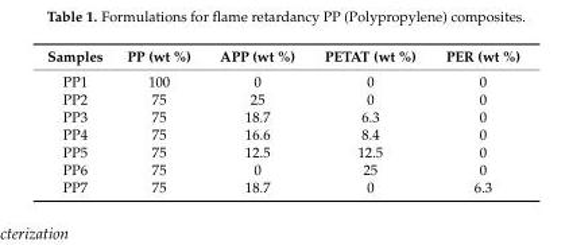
<table><thead><tr><td>Samples</td><td>PP (wt %)</td><td>APP (wt %)</td><td>PETAT (wt %)</td><td>PER (wt %)</td></tr></thead><tbody><tr><td>PP1</td><td>100</td><td>0</td><td>0</td><td>0</td></tr><tr><td>PP2</td><td>75</td><td>25</td><td>0</td><td>0</td></tr><tr><td>PP3</td><td>75</td><td>18.7</td><td>6.3</td><td>0</td></tr><tr><td>PP4</td><td>75</td><td>16.6</td><td>8.4</td><td>0</td></tr><tr><td>PP5</td><td>75</td><td>12.5</td><td>12.5</td><td>0</td></tr><tr><td>PP6</td><td>75</td><td>0</td><td>25</td><td>0</td></tr><tr><td>PP7</td><td>75</td><td>18.7</td><td>0</td><td>6.3</td></tr></tbody></table>